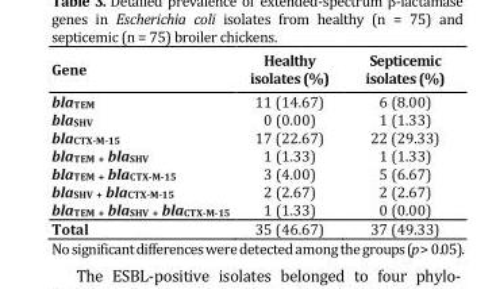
<table><thead><tr><td>Gene</td><td>Healthy isolates (%)</td><td>Septicemic isolates (%)</td></tr></thead><tbody><tr><td>bla<sub>TEM</sub></td><td>11 (14.67)</td><td>6 (8.00)</td></tr><tr><td>bla<sub>SHV</sub></td><td>0 (0.00)</td><td>1 (1.33)</td></tr><tr><td>bla<sub>CTX-M-15</sub></td><td>17 (22.67)</td><td>22 (29.33)</td></tr><tr><td>bla<sub>TEM +</sub> bla<sub>SHV</sub></td><td>1 (1.33)</td><td>1 (1.33)</td></tr><tr><td>bla<sub>TEM +</sub> bla<sub>CTX-M-15</sub></td><td>3 (4.00)</td><td>5 (6.67)</td></tr><tr><td>bla<sub>SHV +</sub> bla<sub>CTX-M-15</sub></td><td>2 (2.67)</td><td>2 (2.67)</td></tr><tr><td>bla<sub>TEM +</sub> bla<sub>SHV +</sub> bla<sub>CTX-M-15</sub></td><td>1 (1.33)</td><td>0 (0.00)</td></tr><tr><td>Total</td><td>35 (46.67)</td><td>37 (49.33)</td></tr></tbody></table>